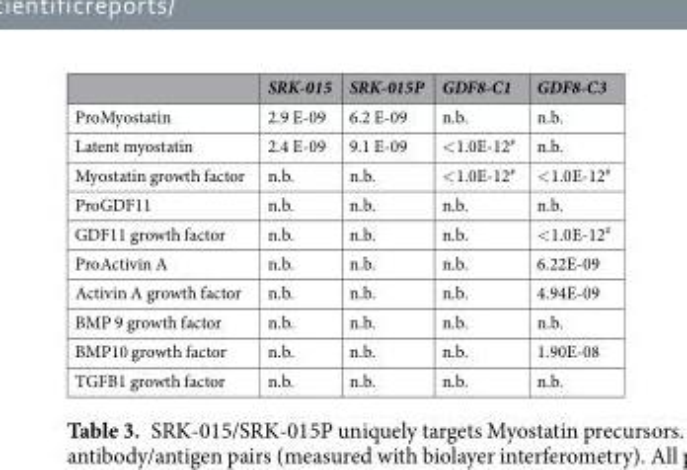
<table><thead><tr><td></td><td>SRK-015</td><td>SRK-015P</td><td>GDF8-C1</td><td>GDF8-C3</td></tr></thead><tbody><tr><td>ProMyostatin</td><td>2.9 E-09</td><td>6.2 E-09</td><td>n.b.</td><td>n.b.</td></tr><tr><td>Latent myostatin</td><td>2.4 E-09</td><td>9.1 E-09</td><td>&lt;1.0E-12<sup>#</sup></td><td>n.b.</td></tr><tr><td>Myostatin growth factor</td><td>n.b.</td><td>n.b.</td><td>&lt;1.0E-12<sup>#</sup></td><td>&lt;1.0E-12<sup>#</sup></td></tr><tr><td>ProGDF11</td><td>n.b.</td><td>n.b.</td><td>n.b.</td><td>n.b.</td></tr><tr><td>GDF11 growth factor</td><td>n.b.</td><td>n.b.</td><td>n.b.</td><td>&lt;1.0E-12<sup>#</sup></td></tr><tr><td>ProActivin A</td><td>n.b.</td><td>n.b.</td><td>n.b.</td><td>6.22E-09</td></tr><tr><td>Activin A growth factor</td><td>n.b.</td><td>n.b.</td><td>n.b.</td><td>4.94E-09</td></tr><tr><td>BMP 9 growth factor</td><td>n.b.</td><td>n.b.</td><td>n.b.</td><td>n.b.</td></tr><tr><td>BMP10 growth factor</td><td>n.b.</td><td>n.b.</td><td>n.b.</td><td>1.90E-08</td></tr><tr><td>TGFB1 growth factor</td><td>n.b.</td><td>n.b.</td><td>n.b.</td><td>n.b.</td></tr></tbody></table>